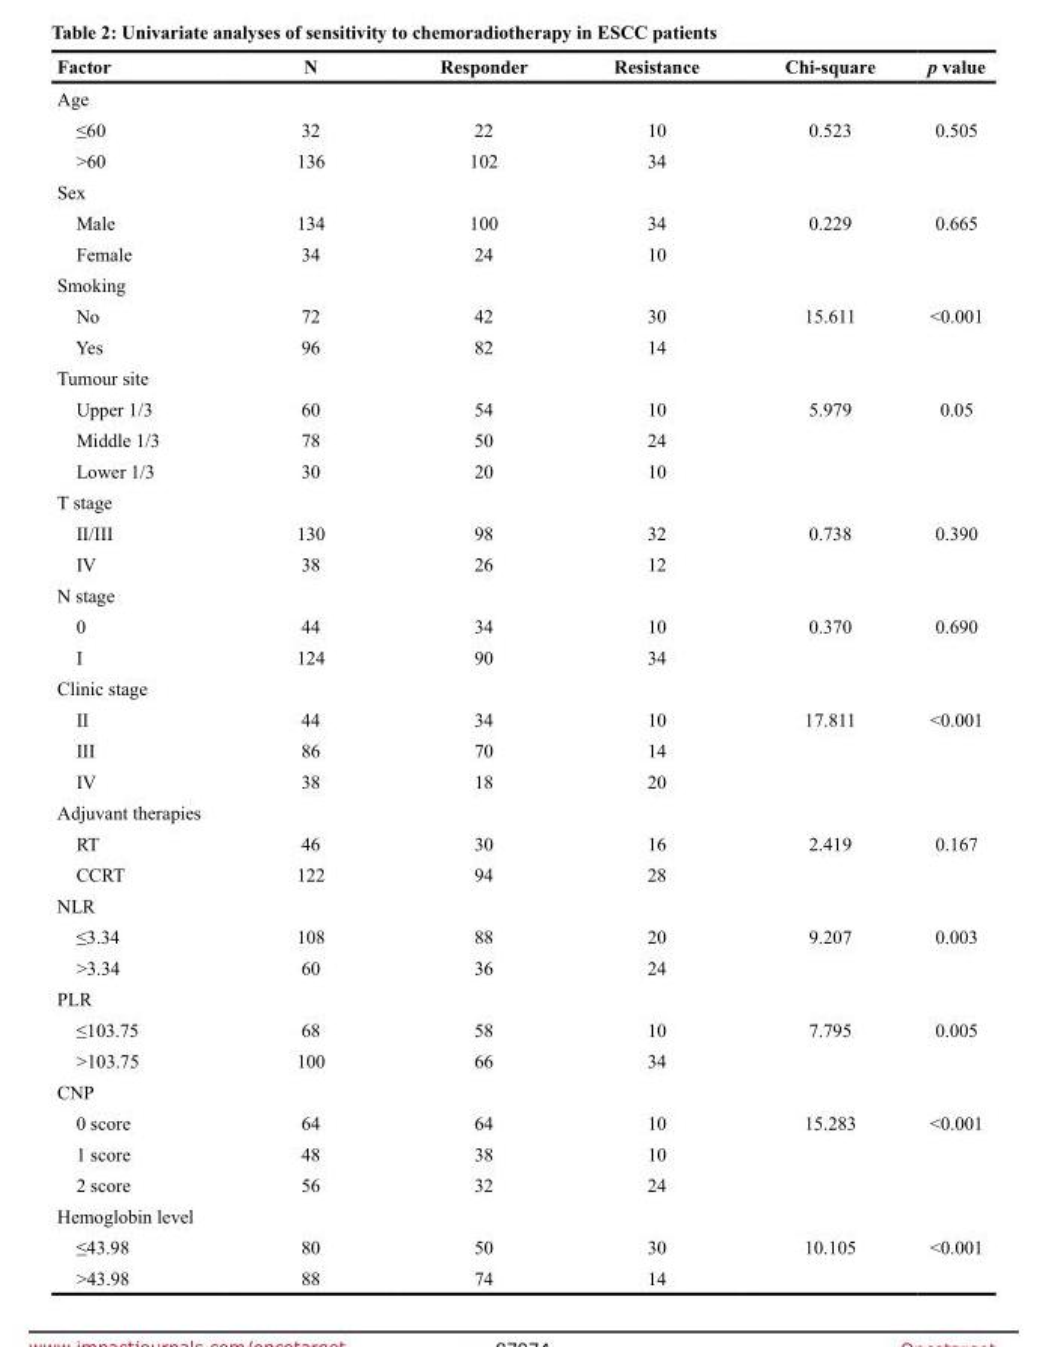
<table><thead><tr><td>Factor</td><td>N</td><td>Responder</td><td>Resistance</td><td>Chi-square</td><td>p value</td></tr></thead><tbody><tr><td colspan="6">Age</td></tr><tr><td>≤60</td><td>32</td><td>22</td><td>10</td><td>0.523</td><td>0.505</td></tr><tr><td>&gt;60</td><td>136</td><td>102</td><td>34</td><td></td><td></td></tr><tr><td colspan="6">Sex</td></tr><tr><td>Male</td><td>134</td><td>100</td><td>34</td><td>0.229</td><td>0.665</td></tr><tr><td>Female</td><td>34</td><td>24</td><td>10</td><td></td><td></td></tr><tr><td colspan="6">Smoking</td></tr><tr><td>No</td><td>72</td><td>42</td><td>30</td><td>15.611</td><td>&lt;0.001</td></tr><tr><td>Yes</td><td>96</td><td>82</td><td>14</td><td></td><td></td></tr><tr><td colspan="6">Tumour site</td></tr><tr><td>Upper 1/3</td><td>60</td><td>54</td><td>10</td><td>5.979</td><td>0.05</td></tr><tr><td>Middle 1/3</td><td>78</td><td>50</td><td>24</td><td></td><td></td></tr><tr><td>Lower 1/3</td><td>30</td><td>20</td><td>10</td><td></td><td></td></tr><tr><td colspan="6">T stage</td></tr><tr><td>II/III</td><td>130</td><td>98</td><td>32</td><td>0.738</td><td>0.390</td></tr><tr><td>IV</td><td>38</td><td>26</td><td>12</td><td></td><td></td></tr><tr><td colspan="6">N stage</td></tr><tr><td>0</td><td>44</td><td>34</td><td>10</td><td>0.370</td><td>0.690</td></tr><tr><td>I</td><td>124</td><td>90</td><td>34</td><td></td><td></td></tr><tr><td colspan="6">Clinic stage</td></tr><tr><td>II</td><td>44</td><td>34</td><td>10</td><td>17.811</td><td>&lt;0.001</td></tr><tr><td>III</td><td>86</td><td>70</td><td>14</td><td></td><td></td></tr><tr><td>IV</td><td>38</td><td>18</td><td>20</td><td></td><td></td></tr><tr><td colspan="6">Adjuvant therapies</td></tr><tr><td>RT</td><td>46</td><td>30</td><td>16</td><td>2.419</td><td>0.167</td></tr><tr><td>CCRT</td><td>122</td><td>94</td><td>28</td><td></td><td></td></tr><tr><td colspan="6">NLR</td></tr><tr><td>≤3.34</td><td>108</td><td>88</td><td>20</td><td>9.207</td><td>0.003</td></tr><tr><td>&gt;3.34</td><td>60</td><td>36</td><td>24</td><td></td><td></td></tr><tr><td colspan="6">PLR</td></tr><tr><td>≤103.75</td><td>68</td><td>58</td><td>10</td><td>7.795</td><td>0.005</td></tr><tr><td>&gt;103.75</td><td>100</td><td>66</td><td>34</td><td></td><td></td></tr><tr><td colspan="6">CNP</td></tr><tr><td>0 score</td><td>64</td><td>64</td><td>10</td><td>15.283</td><td>&lt;0.001</td></tr><tr><td>1 score</td><td>48</td><td>38</td><td>10</td><td></td><td></td></tr><tr><td>2 score</td><td>56</td><td>32</td><td>24</td><td></td><td></td></tr><tr><td colspan="6">Hemoglobin level</td></tr><tr><td>≤43.98</td><td>80</td><td>50</td><td>30</td><td>10.105</td><td>&lt;0.001</td></tr><tr><td>&gt;43.98</td><td>88</td><td>74</td><td>14</td><td></td><td></td></tr></tbody></table>